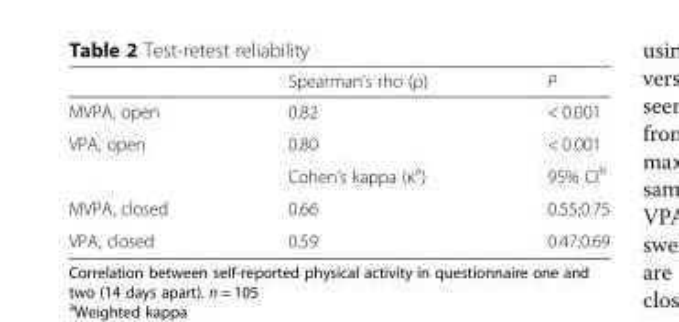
<table><thead><tr><td></td><td>Spearman’s rho (ρ)</td><td>P</td></tr></thead><tbody><tr><td>MVPA, open</td><td>0.82</td><td>&lt; 0.001</td></tr><tr><td rowspan="2">VPA, open</td><td>0.80</td><td>&lt; 0.001</td></tr><tr><td>Cohen’s kappa (к<sup>a</sup>)</td><td>95% CI<sup>b</sup></td></tr><tr><td>MVPA, closed</td><td>0.66</td><td>0.55;0.75</td></tr><tr><td>VPA, closed</td><td>0.59</td><td>0.47;0.69</td></tr></tbody></table>